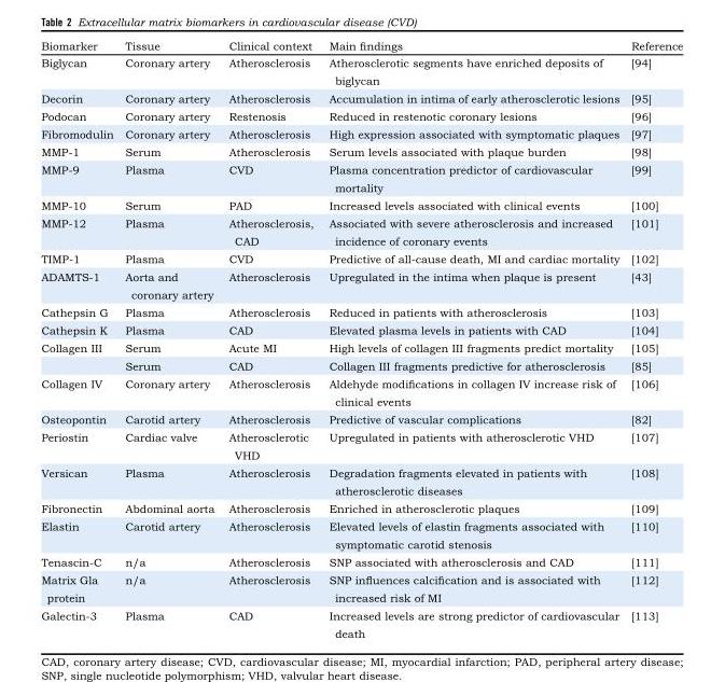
<table><thead><tr><td>Biomarker</td><td>Tissue</td><td>Clinical context</td><td>Main findings</td><td>Reference</td></tr></thead><tbody><tr><td>Biglycan</td><td>Coronary artery</td><td>Atherosclerosis</td><td>Atherosclerotic segments have enriched deposits of biglycan</td><td>[94]</td></tr><tr><td>Decorin</td><td>Coronary artery</td><td>Atherosclerosis</td><td>Accumulation in intima of early atherosclerotic lesions</td><td>[95]</td></tr><tr><td>Podocan</td><td>Coronary artery</td><td>Restenosis</td><td>Reduced in restenotic coronary lesions</td><td>[96]</td></tr><tr><td>Fibromodulin</td><td>Coronary artery</td><td>Atherosclerosis</td><td>High expression associated with symptomatic plaques</td><td>[97]</td></tr><tr><td>MMP-1</td><td>Serum</td><td>Atherosclerosis</td><td>Serum levels associated with plaque burden</td><td>[98]</td></tr><tr><td>MMP-9</td><td>Plasma</td><td>CVD</td><td>Plasma concentration predictor of cardiovascular mortality</td><td>[99]</td></tr><tr><td>MMP-10</td><td>Serum</td><td>PAD</td><td>Increased levels associated with clinical events</td><td>[100]</td></tr><tr><td>MMP-12</td><td>Plasma</td><td>Atherosclerosis, CAD</td><td>Associated with severe atherosclerosis and increased incidence of coronary events</td><td>[101]</td></tr><tr><td>TIMP-1</td><td>Plasma</td><td>CVD</td><td>Predictive of all-cause death, MI and cardiac mortality</td><td>[102]</td></tr><tr><td>ADAMTS-1</td><td>Aorta and coronary artery</td><td>Atherosclerosis</td><td>Upregulated in the intima when plaque is present</td><td>[43]</td></tr><tr><td>Cathepsin G</td><td>Plasma</td><td>Atherosclerosis</td><td>Reduced in patients with atherosclerosis</td><td>[103]</td></tr><tr><td>Cathepsin K</td><td>Plasma</td><td>CAD</td><td>Elevated plasma levels in patients with CAD</td><td>[104]</td></tr><tr><td rowspan="2">Collagen III</td><td>Serum</td><td>Acute MI</td><td>High levels of collagen III fragments predict mortality</td><td>[105]</td></tr><tr><td>Serum</td><td>CAD</td><td>Collagen III fragments predictive for atherosclerosis</td><td>[85]</td></tr><tr><td>Collagen IV</td><td>Coronary artery</td><td>Atherosclerosis</td><td>Aldehyde modifications in collagen IV increase risk of clinical events</td><td>[106]</td></tr><tr><td>Osteopontin</td><td>Carotid artery</td><td>Atherosclerosis</td><td>Predictive of vascular complications</td><td>[82]</td></tr><tr><td>Periostin</td><td>Cardiac valve</td><td>Atherosclerotic VHD</td><td>Upregulated in patients with atherosclerotic VHD</td><td>[107]</td></tr><tr><td>Versican</td><td>Plasma</td><td>Atherosclerosis</td><td>Degradation fragments elevated in patients with atherosclerotic diseases</td><td>[108]</td></tr><tr><td>Fibronectin</td><td>Abdominal aorta</td><td>Atherosclerosis</td><td>Enriched in atherosclerotic plaques</td><td>[109]</td></tr><tr><td>Elastin</td><td>Carotid artery</td><td>Atherosclerosis</td><td>Elevated levels of elastin fragments associated with symptomatic carotid stenosis</td><td>[110]</td></tr><tr><td>Tenascin-C</td><td>n/a</td><td>Atherosclerosis</td><td>SNP associated with atherosclerosis and CAD</td><td>[111]</td></tr><tr><td>Matrix Gla protein</td><td>n/a</td><td>Atherosclerosis</td><td>SNP influences calcification and is associated with increased risk of MI</td><td>[112]</td></tr><tr><td>Galectin-3</td><td>Plasma</td><td>CAD</td><td>Increased levels are strong predictor of cardiovascular death</td><td>[113]</td></tr></tbody></table>